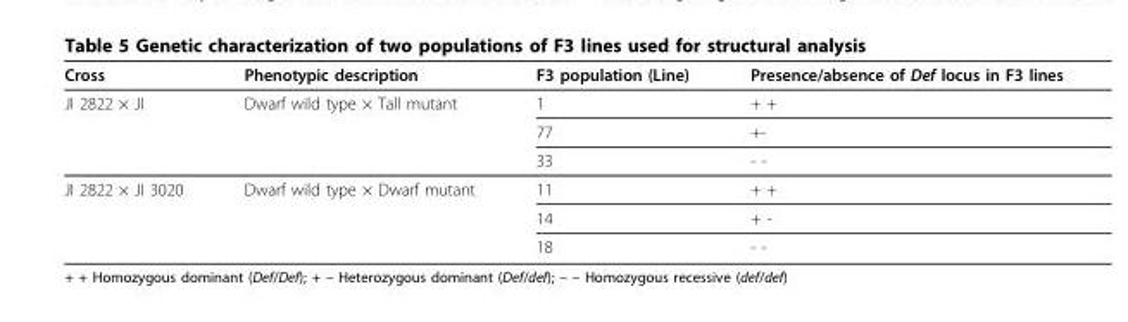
<table><thead><tr><td>Cross</td><td>Phenotypic description</td><td>F3 population (Line)</td><td>Presence/absence of Def locus in F3 lines</td></tr></thead><tbody><tr><td rowspan="3">JI 2822 × JI</td><td>Dwarf wild type × Tall mutant</td><td>1</td><td>+ +</td></tr><tr><td></td><td>77</td><td>+-</td></tr><tr><td></td><td>33</td><td>- -</td></tr><tr><td rowspan="3">JI 2822 × JI 3020</td><td>Dwarf wild type × Dwarf mutant</td><td>11</td><td>+ +</td></tr><tr><td></td><td>14</td><td>+ -</td></tr><tr><td></td><td>18</td><td>- -</td></tr></tbody></table>